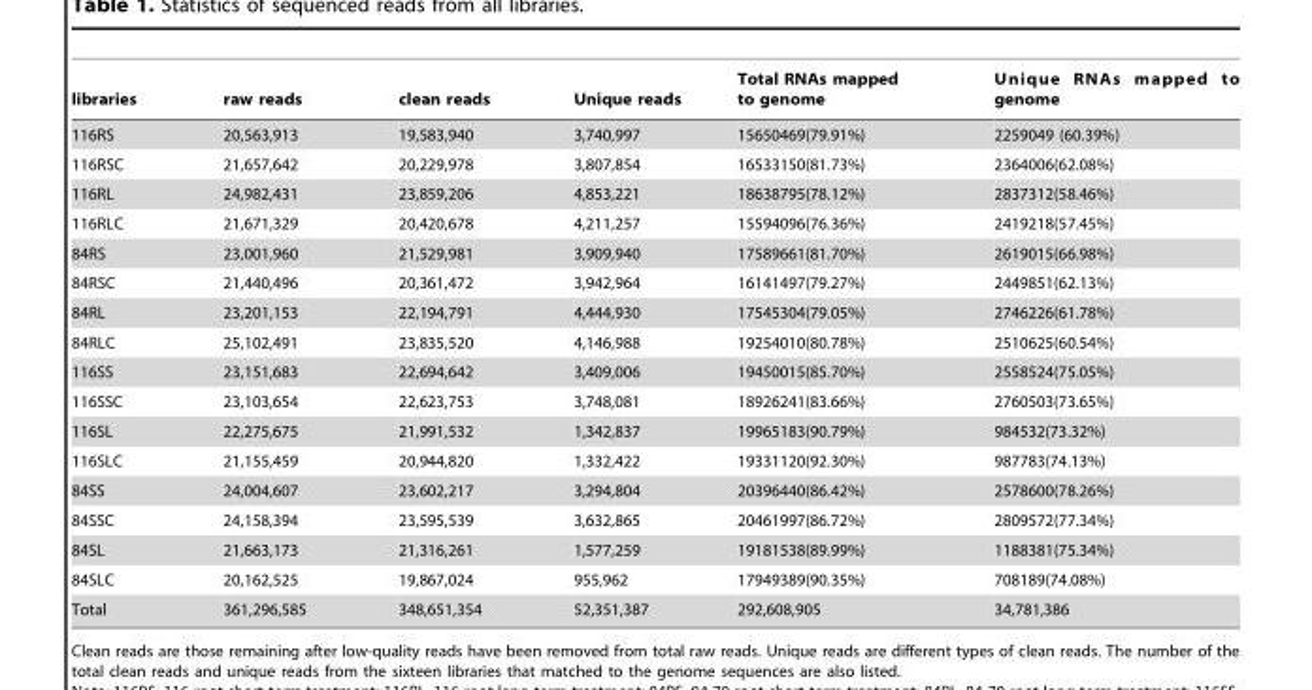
<table><thead><tr><td>libraries</td><td>raw reads</td><td>clean reads</td><td>Unique reads</td><td>Total RNAs mapped to genome</td><td>Unique RNAs mapped to genome</td></tr></thead><tbody><tr><td>116RS</td><td>20,563,913</td><td>19,583,940</td><td>3,740,997</td><td>15650469(79.91%)</td><td>2259049 (60.39%)</td></tr><tr><td>116RSC</td><td>21,657,642</td><td>20,229,978</td><td>3,807,854</td><td>16533150(81.73%)</td><td>2364006(62.08%)</td></tr><tr><td>116RL</td><td>24,982,431</td><td>23,859,206</td><td>4,853,221</td><td>18638795(78.12%)</td><td>2837312(58.46%)</td></tr><tr><td>116RLC</td><td>21,671,329</td><td>20,420,678</td><td>4,211,257</td><td>15594096(76.36%)</td><td>2419218(57.45%)</td></tr><tr><td>84RS</td><td>23,001,960</td><td>21,529,981</td><td>3,909,940</td><td>17589661(81.70%)</td><td>2619015(66.98%)</td></tr><tr><td>84RSC</td><td>21,440,496</td><td>20,361,472</td><td>3,942,964</td><td>16141497(79.27%)</td><td>2449851(62.13%)</td></tr><tr><td>84RL</td><td>23,201,153</td><td>22,194,791</td><td>4,444,930</td><td>17545304(79.05%)</td><td>2746226(61.78%)</td></tr><tr><td>84RLC</td><td>25,102,491</td><td>23,835,520</td><td>4,146,988</td><td>19254010(80.78%)</td><td>2510625(60.54%)</td></tr><tr><td>116SS</td><td>23,151,683</td><td>22,694,642</td><td>3,409,006</td><td>19450015(85.70%)</td><td>2558524(75.05%)</td></tr><tr><td>116SSC</td><td>23,103,654</td><td>22,623,753</td><td>3,748,081</td><td>18926241(83.66%)</td><td>2760503(73.65%)</td></tr><tr><td>116SL</td><td>22,275,675</td><td>21,991,532</td><td>1,342,837</td><td>19965183(90.79%)</td><td>984532(73.32%)</td></tr><tr><td>116SLC</td><td>21,155,459</td><td>20,944,820</td><td>1,332,422</td><td>19331120(92.30%)</td><td>987783(74.13%)</td></tr><tr><td>84SS</td><td>24,004,607</td><td>23,602,217</td><td>3,294,804</td><td>20396440(86.42%)</td><td>2578600(78.26%)</td></tr><tr><td>84SSC</td><td>24,158,394</td><td>23,595,539</td><td>3,632,865</td><td>20461997(86.72%)</td><td>2809572(77.34%)</td></tr><tr><td>84SL</td><td>21,663,173</td><td>21,316,261</td><td>1,577,259</td><td>19181538(89.99%)</td><td>1188381(75.34%)</td></tr><tr><td>84SLC</td><td>20,162,525</td><td>19,867,024</td><td>955,962</td><td>17949389(90.35%)</td><td>708189(74.08%)</td></tr><tr><td>Total</td><td>361,296,585</td><td>348,651,354</td><td>52,351,387</td><td>292,608,905</td><td>34,781,386</td></tr></tbody></table>